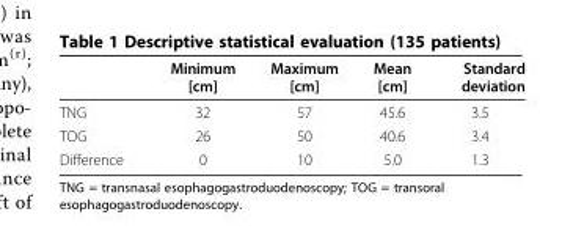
<table><thead><tr><td></td><td>Minimum [cm]</td><td>Maximum [cm]</td><td>Mean [cm]</td><td>Standard deviation</td></tr></thead><tbody><tr><td>TNG</td><td>32</td><td>57</td><td>45.6</td><td>3.5</td></tr><tr><td>TOG</td><td>26</td><td>50</td><td>40.6</td><td>3.4</td></tr><tr><td>Difference</td><td>0</td><td>10</td><td>5.0</td><td>1.3</td></tr></tbody></table>